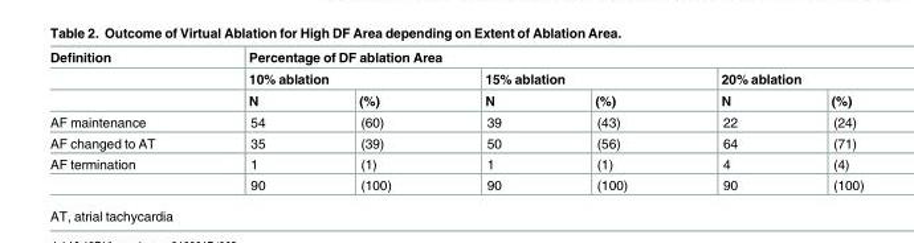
<table><thead><tr><td rowspan="3">Definition</td><td colspan="6">Percentage of DF ablation Area</td></tr><tr><td colspan="2">10% ablation</td><td colspan="2">15% ablation</td><td colspan="2">20% ablation</td></tr><tr><td>N</td><td>(%)</td><td>N</td><td>(%)</td><td>N</td><td>(%)</td></tr></thead><tbody><tr><td>AF maintenance</td><td>54</td><td>(60)</td><td>39</td><td>(43)</td><td>22</td><td>(24)</td></tr><tr><td>AF changed to AT</td><td>35</td><td>(39)</td><td>50</td><td>(56)</td><td>64</td><td>(71)</td></tr><tr><td rowspan="2">AF termination</td><td>1</td><td>(1)</td><td>1</td><td>(1)</td><td>4</td><td>(4)</td></tr><tr><td>90</td><td>(100)</td><td>90</td><td>(100)</td><td>90</td><td>(100)</td></tr></tbody></table>